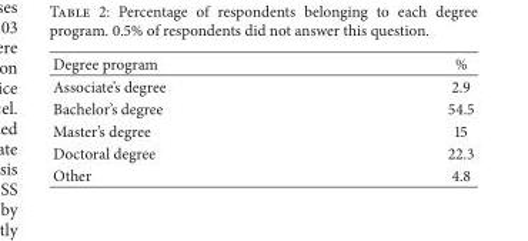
<table><thead><tr><td>Degree program</td><td>%</td></tr></thead><tbody><tr><td>Associate’s degree</td><td>2.9</td></tr><tr><td>Bachelor’s degree</td><td>54.5</td></tr><tr><td>Master’s degree</td><td>15</td></tr><tr><td>Doctoral degree</td><td>22.3</td></tr><tr><td>Other</td><td>4.8</td></tr></tbody></table>